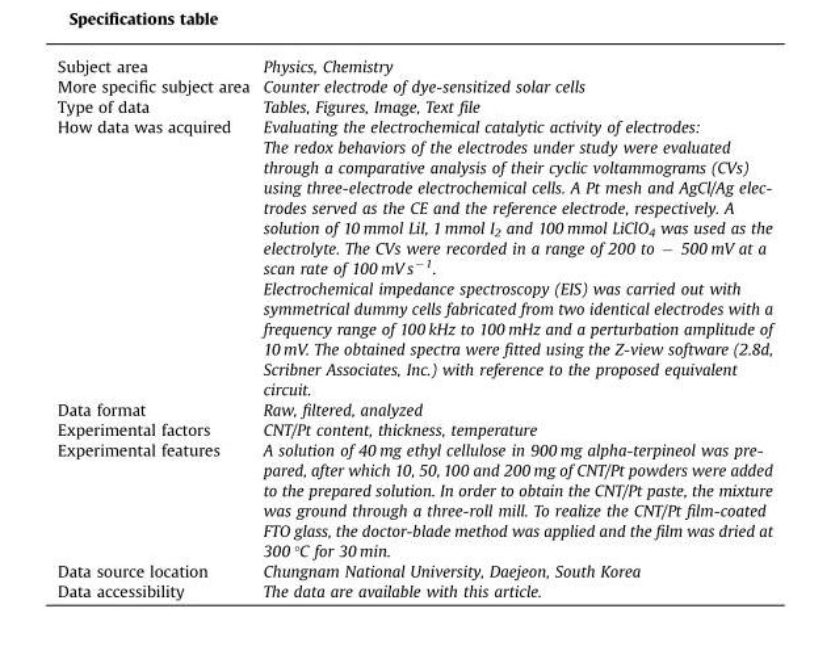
<table><thead><tr><td>Subject area</td><td>Physics, Chemistry</td></tr></thead><tbody><tr><td>More specific subject area</td><td>Counter electrode of dye-sensitized solar cells</td></tr><tr><td>Type of data</td><td>Tables, Figures, Image, Text file</td></tr><tr><td rowspan="3">How data was acquired</td><td>Evaluating the electrochemical catalytic activity of electrodes:</td></tr><tr><td>The redox behaviors of the electrodes under study were evaluated through a comparative analysis of their cyclic voltammograms (CVs) using three-electrode electrochemical cells. A Pt mesh and AgCl/Ag elec- trodes served as the CE and the reference electrode, respectively. A solution of 10 mmol LiI, 1 mmol I2 and 100 mmol LiClO4 was used as the electrolyte. The CVs were recorded in a range of 200 to � 500 mV at a scan rate of 100 mV s�1.</td></tr><tr><td>Electrochemical impedance spectroscopy (EIS) was carried out with symmetrical dummy cells fabricated from two identical electrodes with a frequency range of 100 kHz to 100 mHz and a perturbation amplitude of 10 mV. The obtained spectra were fitted using the Z-view software (2.8d, Scribner Associates, Inc.) with reference to the proposed equivalent circuit.</td></tr><tr><td>Data format</td><td>Raw, filtered, analyzed</td></tr><tr><td>Experimental factors</td><td>CNT/Pt content, thickness, temperature</td></tr><tr><td>Experimental features</td><td>A solution of 40 mg ethyl cellulose in 900 mg alpha-terpineol was pre- pared, after which 10, 50, 100 and 200 mg of CNT/Pt powders were added to the prepared solution. In order to obtain the CNT/Pt paste, the mixture was ground through a three-roll mill. To realize the CNT/Pt film-coated FTO glass, the doctor-blade method was applied and the film was dried at 300 °C for 30 min.</td></tr><tr><td>Data source location</td><td>Chungnam National University, Daejeon, South Korea</td></tr><tr><td>Data accessibility</td><td>The data are available with this article.</td></tr></tbody></table>